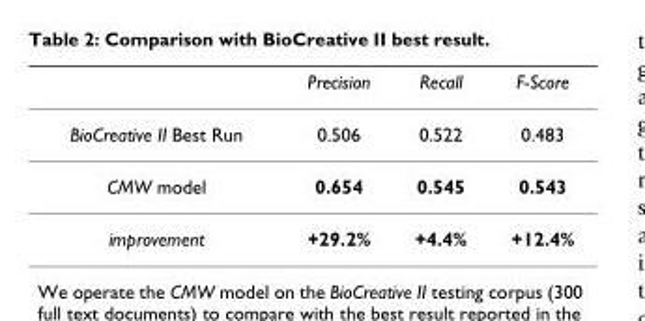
<table><thead><tr><td></td><td>Precision</td><td>Recall</td><td>F-Score</td></tr></thead><tbody><tr><td>BioCreative II Best Run</td><td>0.506</td><td>0.522</td><td>0.483</td></tr><tr><td>CMW model</td><td>0.654</td><td>0.545</td><td>0.543</td></tr><tr><td>improvement</td><td>+29.2%</td><td>+4.4%</td><td>+12.4%</td></tr></tbody></table>